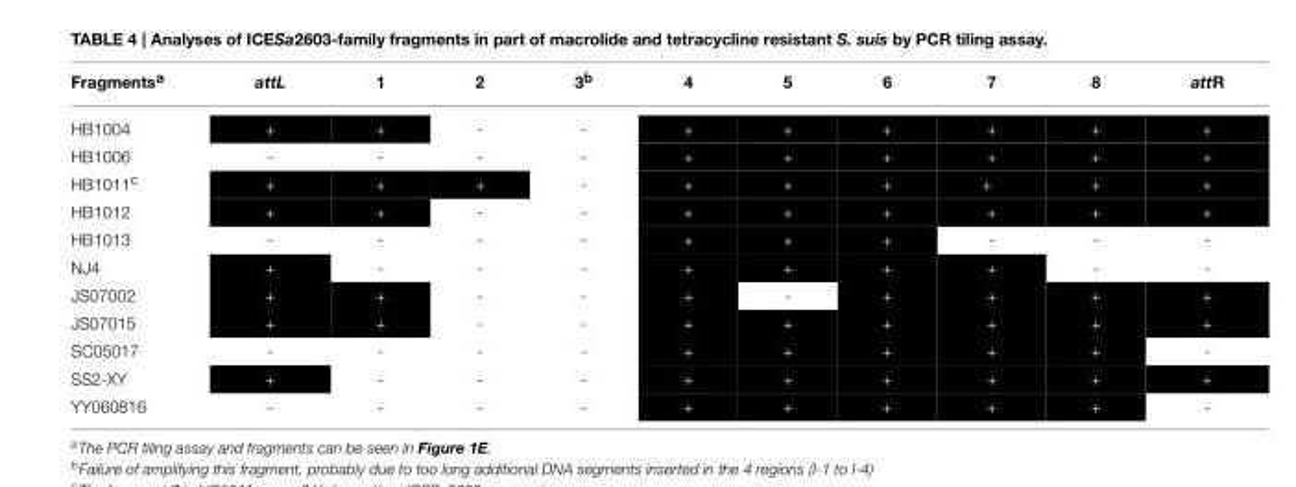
<table><thead><tr><td>Fragments<sup>a</sup></td><td>attL</td><td>1</td><td>2</td><td>3<sup>b</sup></td><td>4</td><td>5</td><td>6</td><td>7</td><td>8</td><td>attR</td></tr></thead><tbody><tr><td>HB1004</td><td>+</td><td>+</td><td>-</td><td>-</td><td>+</td><td>+</td><td>+</td><td>+</td><td>+</td><td>+</td></tr><tr><td>HB1006</td><td>-</td><td>-</td><td>-</td><td>-</td><td>+</td><td>+</td><td>+</td><td>+</td><td>+</td><td>+</td></tr><tr><td>HB1011<sup>c</sup></td><td>+</td><td>+</td><td>+</td><td>-</td><td>+</td><td>+</td><td>+</td><td>+<sup>b</sup></td><td>+</td><td>+</td></tr><tr><td>HB1012</td><td>+</td><td>+</td><td>-</td><td>-</td><td>+</td><td>+</td><td>+</td><td>+</td><td>+</td><td>+</td></tr><tr><td>HB1013</td><td>-</td><td>-</td><td>-</td><td>-</td><td>+</td><td>+</td><td>+</td><td>-</td><td>-</td><td>-</td></tr><tr><td>NJ4</td><td>+</td><td>-</td><td>-</td><td>-</td><td>+</td><td>+</td><td>+</td><td>+</td><td>-</td><td>-</td></tr><tr><td>JS07002</td><td>+</td><td>+</td><td>-</td><td>-</td><td>+</td><td>-</td><td>+</td><td>+</td><td>+</td><td>+</td></tr><tr><td>JS07015</td><td>+</td><td>+</td><td>-</td><td>-</td><td>+</td><td>+</td><td>+</td><td>+</td><td>+</td><td>+</td></tr><tr><td>SC05017</td><td>-</td><td>-</td><td>-</td><td>-</td><td>+</td><td>+</td><td>+</td><td>+</td><td>+</td><td>-</td></tr><tr><td>SS2-XY</td><td>+</td><td>-</td><td>-</td><td>-</td><td>+</td><td>+</td><td>+</td><td>+</td><td>+</td><td>+</td></tr><tr><td>YY060816</td><td>-</td><td>-</td><td>-</td><td>-</td><td>+</td><td>+</td><td>+</td><td>+</td><td>+</td><td>-</td></tr></tbody></table>